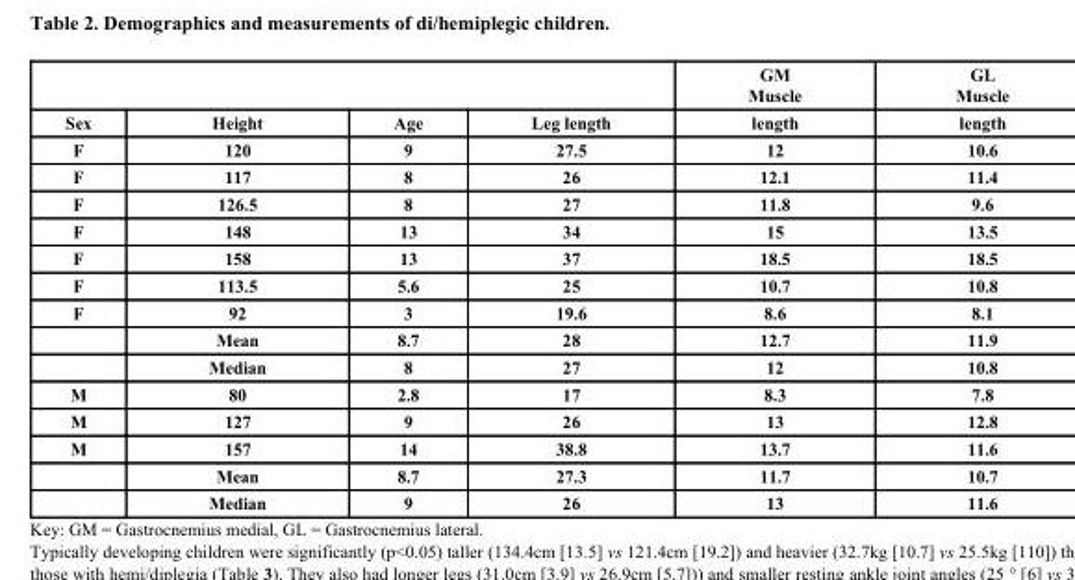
<table><thead><tr><td rowspan="2">Sex</td><td rowspan="2">Height</td><td rowspan="2">Age</td><td rowspan="2">Leg length</td><td rowspan="2">GM Muscle length</td><td rowspan="2">GL Muscle length</td></tr><tr></tr></thead><tbody><tr><td>F</td><td>120</td><td>9</td><td>27.5</td><td>12</td><td>10.6</td></tr><tr><td>F</td><td>117</td><td>8</td><td>26</td><td>12.1</td><td>11.4</td></tr><tr><td>F</td><td>126.5</td><td>8</td><td>27</td><td>11.8</td><td>9.6</td></tr><tr><td>F</td><td>148</td><td>13</td><td>34</td><td>15</td><td>13.5</td></tr><tr><td>F</td><td>158</td><td>13</td><td>37</td><td>18.5</td><td>18.5</td></tr><tr><td>F</td><td>113.5</td><td>5.6</td><td>25</td><td>10.7</td><td>10.8</td></tr><tr><td rowspan="3">F</td><td>92</td><td>3</td><td>19.6</td><td>8.6</td><td>8.1</td></tr><tr><td>Mean</td><td>8.7</td><td>28</td><td>12.7</td><td>11.9</td></tr><tr><td>Median</td><td>8</td><td>27</td><td>12</td><td>10.8</td></tr><tr><td>M</td><td>80</td><td>2.8</td><td>17</td><td>8.3</td><td>7.8</td></tr><tr><td>M</td><td>127</td><td>9</td><td>26</td><td>13</td><td>12.8</td></tr><tr><td rowspan="3">M</td><td>157</td><td>14</td><td>38.8</td><td>13.7</td><td>11.6</td></tr><tr><td>Mean</td><td>8.7</td><td>27.3</td><td>11.7</td><td>10.7</td></tr><tr><td>Median</td><td>9</td><td>26</td><td>13</td><td>11.6</td></tr></tbody></table>